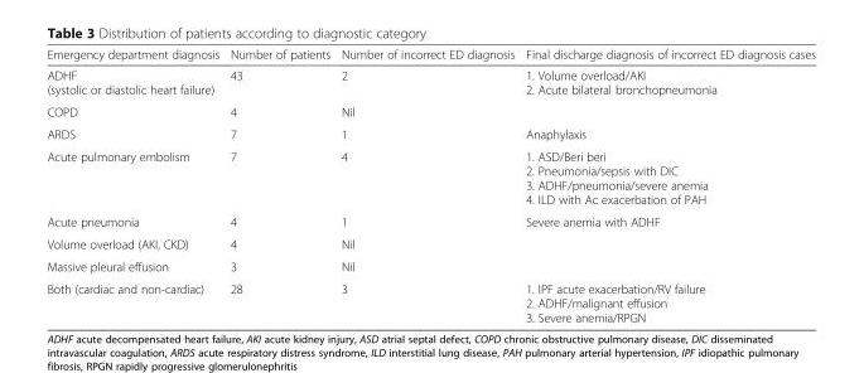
<table><thead><tr><td>Emergency department diagnosis</td><td>Number of patients</td><td>Number of incorrect ED diagnosis</td><td>Final discharge diagnosis of incorrect ED diagnosis cases</td></tr></thead><tbody><tr><td>ADHF (systolic or diastolic heart failure)</td><td>43</td><td>2</td><td>1. Volume overload/AKI 2. Acute bilateral bronchopneumonia</td></tr><tr><td>COPD</td><td>4</td><td>Nil</td><td></td></tr><tr><td>ARDS</td><td>7</td><td>1</td><td>Anaphylaxis</td></tr><tr><td>Acute pulmonary embolism</td><td>7</td><td>4</td><td>1. ASD/Beri beri 2. Pneumonia/sepsis with DIC 3. ADHF/pneumonia/severe anemia 4. ILD with Ac exacerbation of PAH</td></tr><tr><td>Acute pneumonia</td><td>4</td><td>1</td><td>Severe anemia with ADHF</td></tr><tr><td>Volume overload (AKI, CKD)</td><td>4</td><td>Nil</td><td></td></tr><tr><td>Massive pleural effusion</td><td>3</td><td>Nil</td><td></td></tr><tr><td>Both (cardiac and non-cardiac)</td><td>28</td><td>3</td><td>1. IPF acute exacerbation/RV failure 2. ADHF/malignant effusion 3. Severe anemia/RPGN</td></tr></tbody></table>